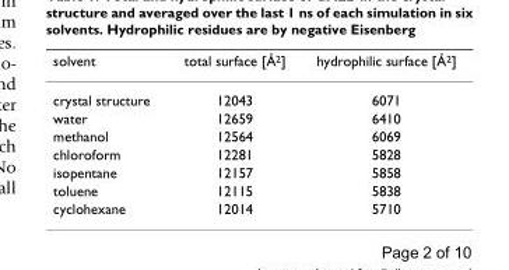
<table><thead><tr><td>solvent</td><td>total surface [Å<sup>2</sup>]</td><td>hydrophilic surface [Å<sup>2</sup>]</td></tr></thead><tbody><tr><td>crystal structure</td><td>12043</td><td>6071</td></tr><tr><td>water</td><td>12659</td><td>6410</td></tr><tr><td>methanol</td><td>12564</td><td>6069</td></tr><tr><td>chloroform</td><td>12281</td><td>5828</td></tr><tr><td>isopentane</td><td>12157</td><td>5858</td></tr><tr><td>toluene</td><td>12115</td><td>5838</td></tr><tr><td>cyclohexane</td><td>12014</td><td>5710</td></tr></tbody></table>